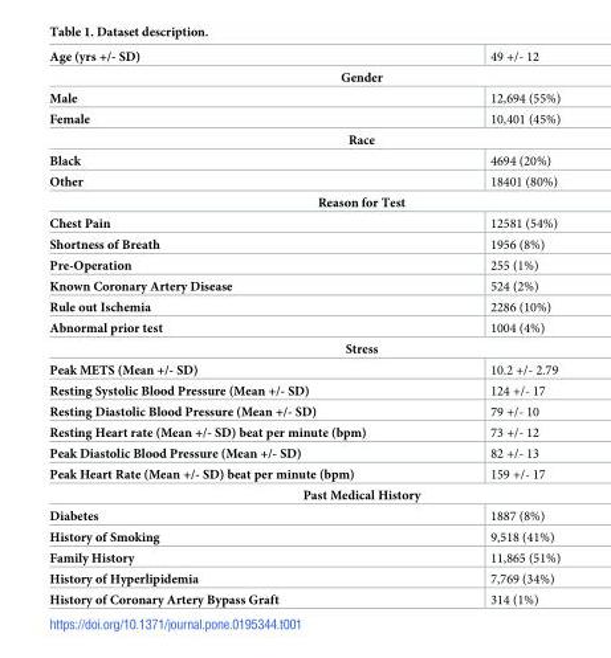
<table><tbody><tr><td>Age (yrs +/- SD)</td><td>49 +/- 12</td></tr><tr><td colspan="2">Gender</td></tr><tr><td>Male</td><td>12,694 (55%)</td></tr><tr><td>Female</td><td>10,401 (45%)</td></tr><tr><td colspan="2">Race</td></tr><tr><td>Black</td><td>4694 (20%)</td></tr><tr><td>Other</td><td>18401 (80%)</td></tr><tr><td colspan="2">Reason for Test</td></tr><tr><td>Chest Pain</td><td>12581 (54%)</td></tr><tr><td>Shortness of Breath</td><td>1956 (8%)</td></tr><tr><td>Pre-Operation</td><td>255 (1%)</td></tr><tr><td>Known Coronary Artery Disease</td><td>524 (2%)</td></tr><tr><td>Rule out Ischemia</td><td>2286 (10%)</td></tr><tr><td>Abnormal prior test</td><td>1004 (4%)</td></tr><tr><td colspan="2">Stress</td></tr><tr><td>Peak METS (Mean +/- SD)</td><td>10.2 +/- 2.79</td></tr><tr><td>Resting Systolic Blood Pressure (Mean +/- SD)</td><td>124 +/- 17</td></tr><tr><td>Resting Diastolic Blood Pressure (Mean +/- SD)</td><td>79 +/- 10</td></tr><tr><td>Resting Heart rate (Mean +/- SD) beat per minute (bpm)</td><td>73 +/- 12</td></tr><tr><td>Peak Diastolic Blood Pressure (Mean +/- SD)</td><td>82 +/- 13</td></tr><tr><td>Peak Heart Rate (Mean +/- SD) beat per minute (bpm)</td><td>159 +/- 17</td></tr><tr><td colspan="2">Past Medical History</td></tr><tr><td>Diabetes</td><td>1887 (8%)</td></tr><tr><td>History of Smoking</td><td>9,518 (41%)</td></tr><tr><td>Family History</td><td>11,865 (51%)</td></tr><tr><td>History of Hyperlipidemia</td><td>7,769 (34%)</td></tr><tr><td>History of Coronary Artery Bypass Graft</td><td>314 (1%)</td></tr></tbody></table>